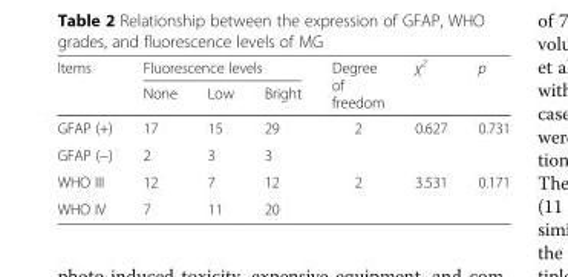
<table><thead><tr><td rowspan="2">Items</td><td colspan="3">Fluorescence levels</td><td rowspan="2">Degree of freedom</td><td rowspan="2">χ<sup>2</sup></td><td rowspan="2">p</td></tr><tr><td>None</td><td>Low</td><td>Bright</td></tr></thead><tbody><tr><td>GFAP (+)</td><td>17</td><td>15</td><td>29</td><td rowspan="2">2</td><td rowspan="2">0.627</td><td rowspan="2">0.731</td></tr><tr><td>GFAP (−)</td><td>2</td><td>3</td><td>3</td></tr><tr><td>WHO III</td><td>12</td><td>7</td><td>12</td><td rowspan="2">2</td><td rowspan="2">3.531</td><td rowspan="2">0.171</td></tr><tr><td>WHO IV</td><td>7</td><td>11</td><td>20</td></tr></tbody></table>